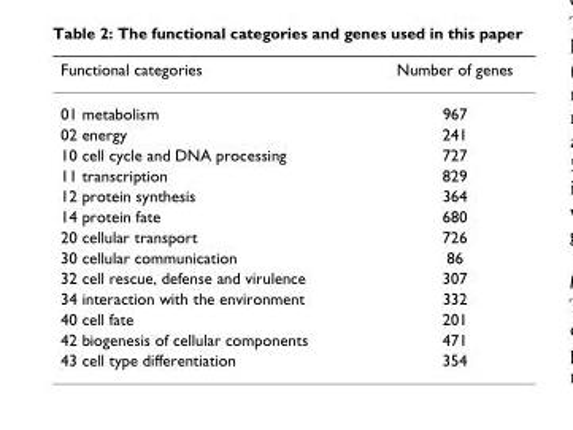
<table><thead><tr><td>Functional categories</td><td>Number of genes</td></tr></thead><tbody><tr><td>01 metabolism</td><td>967</td></tr><tr><td>02 energy</td><td>241</td></tr><tr><td>10 cell cycle and DNA processing</td><td>727</td></tr><tr><td>11 transcription</td><td>829</td></tr><tr><td>12 protein synthesis</td><td>364</td></tr><tr><td>14 protein fate</td><td>680</td></tr><tr><td>20 cellular transport</td><td>726</td></tr><tr><td>30 cellular communication</td><td>86</td></tr><tr><td>32 cell rescue, defense and virulence</td><td>307</td></tr><tr><td>34 interaction with the environment</td><td>332</td></tr><tr><td>40 cell fate</td><td>201</td></tr><tr><td>42 biogenesis of cellular components</td><td>471</td></tr><tr><td>43 cell type differentiation</td><td>354</td></tr></tbody></table>